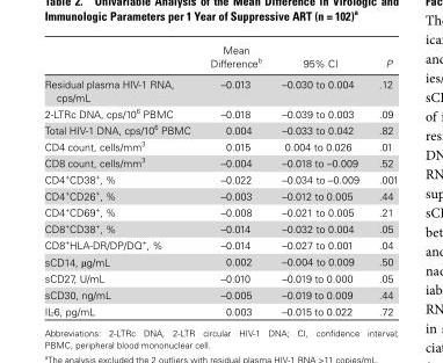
<table><thead><tr><td></td><td>Mean Difference<sup>b</sup></td><td>95% CI</td><td>P</td></tr></thead><tbody><tr><td>Residual plasma HIV-1 RNA, cps/mL</td><td>–0.013</td><td>–0.030 to 0.004</td><td>.12</td></tr><tr><td>2-LTRc DNA, cps/10<sup>6</sup> PBMC</td><td>–0.018</td><td>–0.039 to 0.003</td><td>.09</td></tr><tr><td>Total HIV-1 DNA, cps/10<sup>6</sup> PBMC</td><td>0.004</td><td>–0.033 to 0.042</td><td>.82</td></tr><tr><td>CD4 count, cells/mm<sup>3</sup></td><td>0.015</td><td>0.004 to 0.026</td><td>.01</td></tr><tr><td>CD8 count, cells/mm<sup>3</sup></td><td>–0.004</td><td>–0.018 to –0.009</td><td>.52</td></tr><tr><td>CD4<sup>+</sup>CD38<sup>+</sup>, %</td><td>–0.022</td><td>–0.034 to –0.009</td><td>.001</td></tr><tr><td>CD4<sup>+</sup>CD26<sup>+</sup>, %</td><td>–0.003</td><td>–0.012 to 0.005</td><td>.44</td></tr><tr><td>CD4<sup>+</sup>CD69<sup>+</sup>, %</td><td>–0.008</td><td>–0.021 to 0.005</td><td>.21</td></tr><tr><td>CD8<sup>+</sup>CD38<sup>+</sup>, %</td><td>–0.014</td><td>–0.032 to 0.004</td><td>.05</td></tr><tr><td>CD8<sup>+</sup>HLA-DR/DP/DQ<sup>+</sup>, %</td><td>–0.014</td><td>–0.027 to 0.001</td><td>.04</td></tr><tr><td>sCD14, µg/mL</td><td>0.002</td><td>–0.004 to 0.009</td><td>.50</td></tr><tr><td>sCD27, U/mL</td><td>–0.010</td><td>–0.019 to 0.000</td><td>.05</td></tr><tr><td>sCD30, ng/mL</td><td>–0.005</td><td>–0.019 to 0.009</td><td>.44</td></tr><tr><td>IL-6, pg/mL</td><td>0.003</td><td>–0.015 to 0.022</td><td>.72</td></tr></tbody></table>